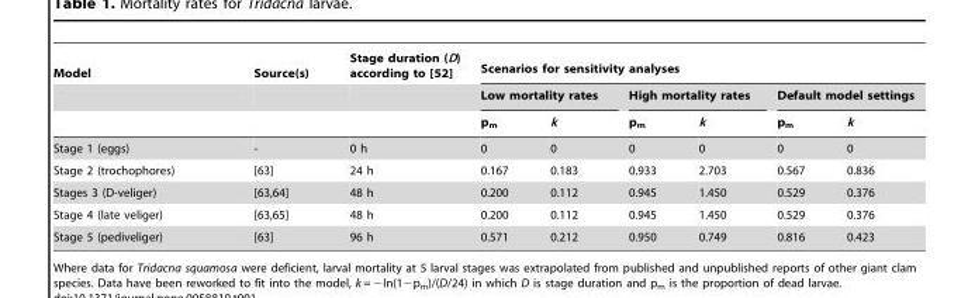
<table><thead><tr><td rowspan="3">Model</td><td rowspan="3">Source(s)</td><td rowspan="3">Stage duration (D) according to [52]</td><td colspan="6">Scenarios for sensitivity analyses</td></tr><tr><td colspan="2">Low mortality rates</td><td colspan="2">High mortality rates</td><td colspan="2">Default model settings</td></tr><tr><td>p<sub>m</sub></td><td>k</td><td>p<sub>m</sub></td><td>k</td><td>p<sub>m</sub></td><td>k</td></tr></thead><tbody><tr><td>Stage 1 (eggs)</td><td>-</td><td>0 h</td><td>0</td><td>0</td><td>0</td><td>0</td><td>0</td><td>0</td></tr><tr><td>Stage 2 (trochophores)</td><td>[63]</td><td>24 h</td><td>0.167</td><td>0.183</td><td>0.933</td><td>2.703</td><td>0.567</td><td>0.836</td></tr><tr><td>Stages 3 (D-veliger)</td><td>[63,64]</td><td>48 h</td><td>0.200</td><td>0.112</td><td>0.945</td><td>1.450</td><td>0.529</td><td>0.376</td></tr><tr><td>Stage 4 (late veliger)</td><td>[63,65]</td><td>48 h</td><td>0.200</td><td>0.112</td><td>0.945</td><td>1.450</td><td>0.529</td><td>0.376</td></tr><tr><td>Stage 5 (pediveliger)</td><td>[63]</td><td>96 h</td><td>0.571</td><td>0.212</td><td>0.950</td><td>0.749</td><td>0.816</td><td>0.423</td></tr></tbody></table>